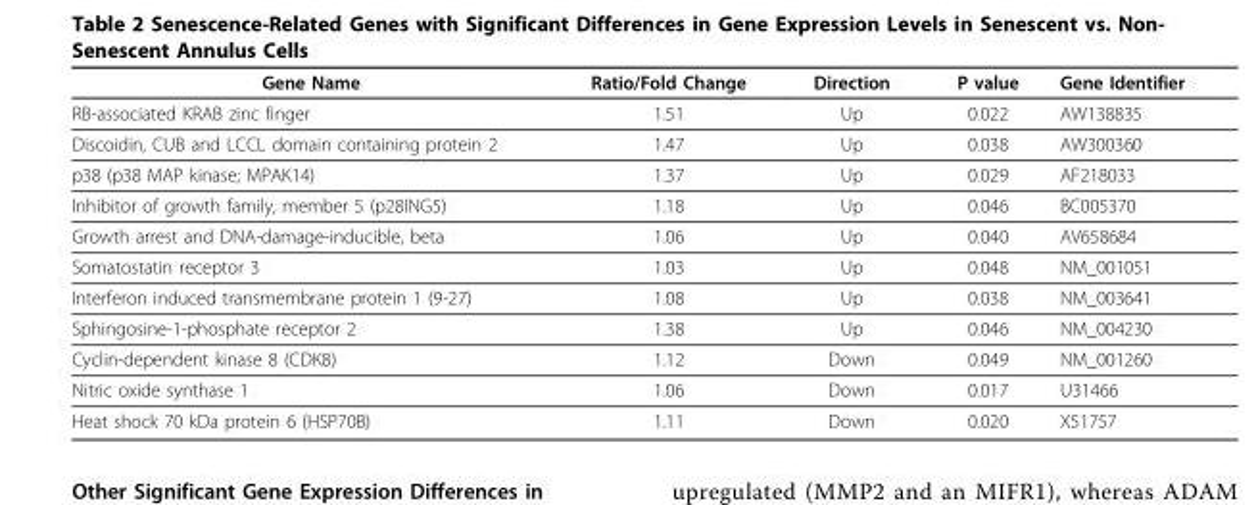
<table><thead><tr><td>Gene Name</td><td>Ratio/Fold Change</td><td>Direction</td><td>P value</td><td>Gene Identifier</td></tr></thead><tbody><tr><td>RB-associated KRAB zinc finger</td><td>1.51</td><td>Up</td><td>0.022</td><td>AW138835</td></tr><tr><td>Discoidin, CUB and LCCL domain containing protein 2</td><td>1.47</td><td>Up</td><td>0.038</td><td>AW300360</td></tr><tr><td>p38 (p38 MAP kinase; MPAK14)</td><td>1.37</td><td>Up</td><td>0.029</td><td>AF218033</td></tr><tr><td>Inhibitor of growth family, member 5 (p28ING5)</td><td>1.18</td><td>Up</td><td>0.046</td><td>BC005370</td></tr><tr><td>Growth arrest and DNA-damage-inducible, beta</td><td>1.06</td><td>Up</td><td>0.040</td><td>AV658684</td></tr><tr><td>Somatostatin receptor 3</td><td>1.03</td><td>Up</td><td>0.048</td><td>NM_001051</td></tr><tr><td>Interferon induced transmembrane protein 1 (9-27)</td><td>1.08</td><td>Up</td><td>0.038</td><td>NM_003641</td></tr><tr><td>Sphingosine-1-phosphate receptor 2</td><td>1.38</td><td>Up</td><td>0.046</td><td>NM_004230</td></tr><tr><td>Cyclin-dependent kinase 8 (CDK8)</td><td>1.12</td><td>Down</td><td>0.049</td><td>NM_001260</td></tr><tr><td>Nitric oxide synthase 1</td><td>1.06</td><td>Down</td><td>0.017</td><td>U31466</td></tr><tr><td>Heat shock 70 kDa protein 6 (HSP70B)</td><td>1.11</td><td>Down</td><td>0.020</td><td>X51757</td></tr></tbody></table>